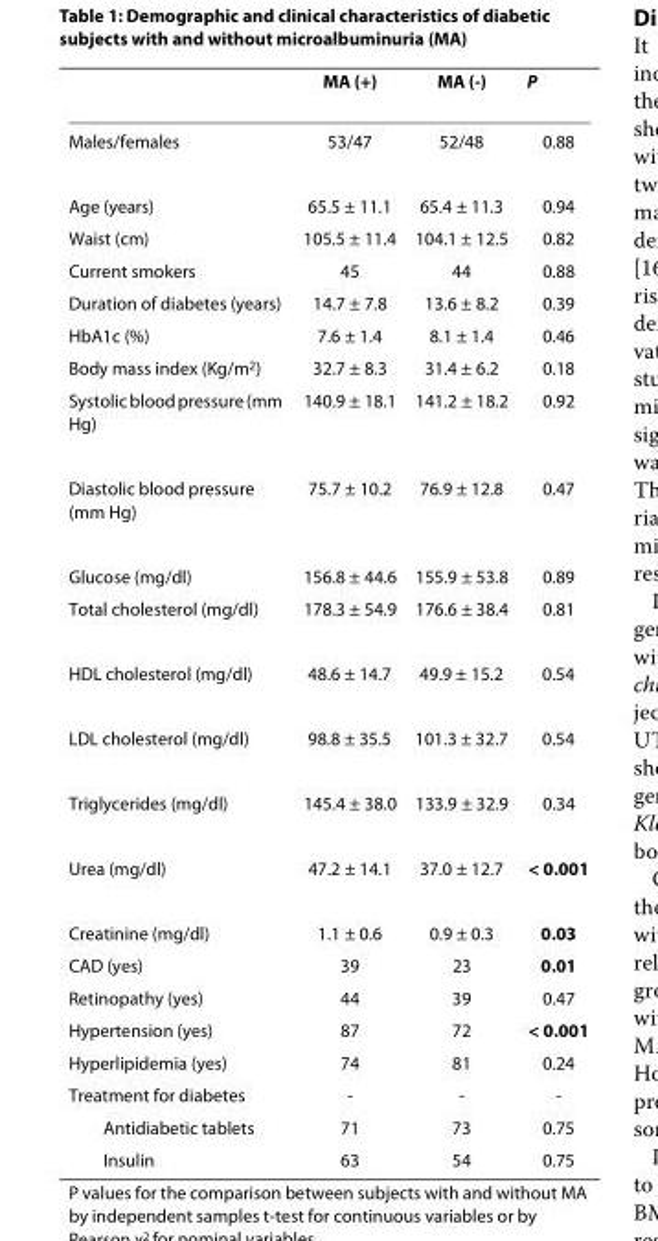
<table><thead><tr><td></td><td>MA (+)</td><td>MA (-)</td><td>P</td></tr></thead><tbody><tr><td>Males/females</td><td>53/47</td><td>52/48</td><td>0.88</td></tr><tr><td>Age (years)</td><td>65.5 ± 11.1</td><td>65.4 ± 11.3</td><td>0.94</td></tr><tr><td>Waist (cm)</td><td>105.5 ± 11.4</td><td>104.1 ± 12.5</td><td>0.82</td></tr><tr><td>Current smokers</td><td>45</td><td>44</td><td>0.88</td></tr><tr><td>Duration of diabetes (years)</td><td>14.7 ± 7.8</td><td>13.6 ± 8.2</td><td>0.39</td></tr><tr><td>HbA1c (%)</td><td>7.6 ± 1.4</td><td>8.1 ± 1.4</td><td>0.46</td></tr><tr><td>Body mass index (Kg/m<sup>2</sup>)</td><td>32.7 ± 8.3</td><td>31.4 ± 6.2</td><td>0.18</td></tr><tr><td>Systolic blood pressure (mm Hg)</td><td>140.9 ± 18.1</td><td>141.2 ± 18.2</td><td>0.92</td></tr><tr><td>Diastolic blood pressure (mm Hg)</td><td>75.7 ± 10.2</td><td>76.9 ± 12.8</td><td>0.47</td></tr><tr><td>Glucose (mg/dl)</td><td>156.8 ± 44.6</td><td>155.9 ± 53.8</td><td>0.89</td></tr><tr><td>Total cholesterol (mg/dl)</td><td>178.3 ± 54.9</td><td>176.6 ± 38.4</td><td>0.81</td></tr><tr><td>HDL cholesterol (mg/dl)</td><td>48.6 ± 14.7</td><td>49.9 ± 15.2</td><td>0.54</td></tr><tr><td>LDL cholesterol (mg/dl)</td><td>98.8 ± 35.5</td><td>101.3 ± 32.7</td><td>0.54</td></tr><tr><td>Triglycerides (mg/dl)</td><td>145.4 ± 38.0</td><td>133.9 ± 32.9</td><td>0.34</td></tr><tr><td>Urea (mg/dl)</td><td>47.2 ± 14.1</td><td>37.0 ± 12.7</td><td>&lt; 0.001</td></tr><tr><td>Creatinine (mg/dl)</td><td>1.1 ± 0.6</td><td>0.9 ± 0.3</td><td>0.03</td></tr><tr><td>CAD (yes)</td><td>39</td><td>23</td><td>0.01</td></tr><tr><td>Retinopathy (yes)</td><td>44</td><td>39</td><td>0.47</td></tr><tr><td>Hypertension (yes)</td><td>87</td><td>72</td><td>&lt; 0.001</td></tr><tr><td>Hyperlipidemia (yes)</td><td>74</td><td>81</td><td>0.24</td></tr><tr><td>Treatment for diabetes</td><td>-</td><td>-</td><td>-</td></tr><tr><td>Antidiabetic tablets</td><td>71</td><td>73</td><td>0.75</td></tr><tr><td>Insulin</td><td>63</td><td>54</td><td>0.75</td></tr></tbody></table>